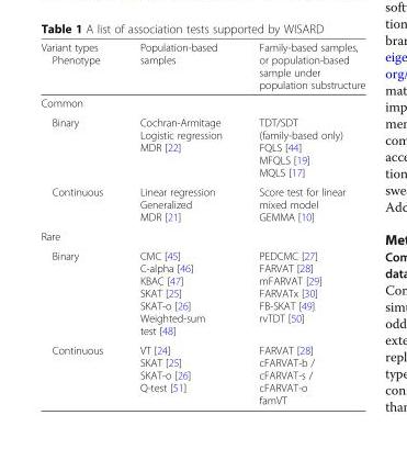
<table><thead><tr><td>Variant types Phenotype</td><td>Population-based samples</td><td>Family-based samples, or population-based sample under population substructure</td></tr></thead><tbody><tr><td colspan="3">Common</td></tr><tr><td>Binary</td><td>Cochran-Armitage Logistic regression MDR [22]</td><td>TDT/SDT (family-based only) FQLS [44] MFQLS [19] MQLS [17]</td></tr><tr><td>Continuous</td><td>Linear regression Generalized MDR [21]</td><td>Score test for linear mixed model GEMMA [10]</td></tr><tr><td colspan="3">Rare</td></tr><tr><td>Binary</td><td>CMC [45] C-alpha [46] KBAC [47] SKAT [25] SKAT-o [26] Weighted-sum test [48]</td><td>PEDCMC [27] FARVAT [28] mFARVAT [29] FARVATx [30] FB-SKAT [49] rvTDT [50]</td></tr><tr><td>Continuous</td><td>VT [24] SKAT [25] SKAT-o [26] Q-test [51]</td><td>FARVAT [28] cFARVAT-b / cFARVAT-s / cFARVAT-o famVT</td></tr></tbody></table>